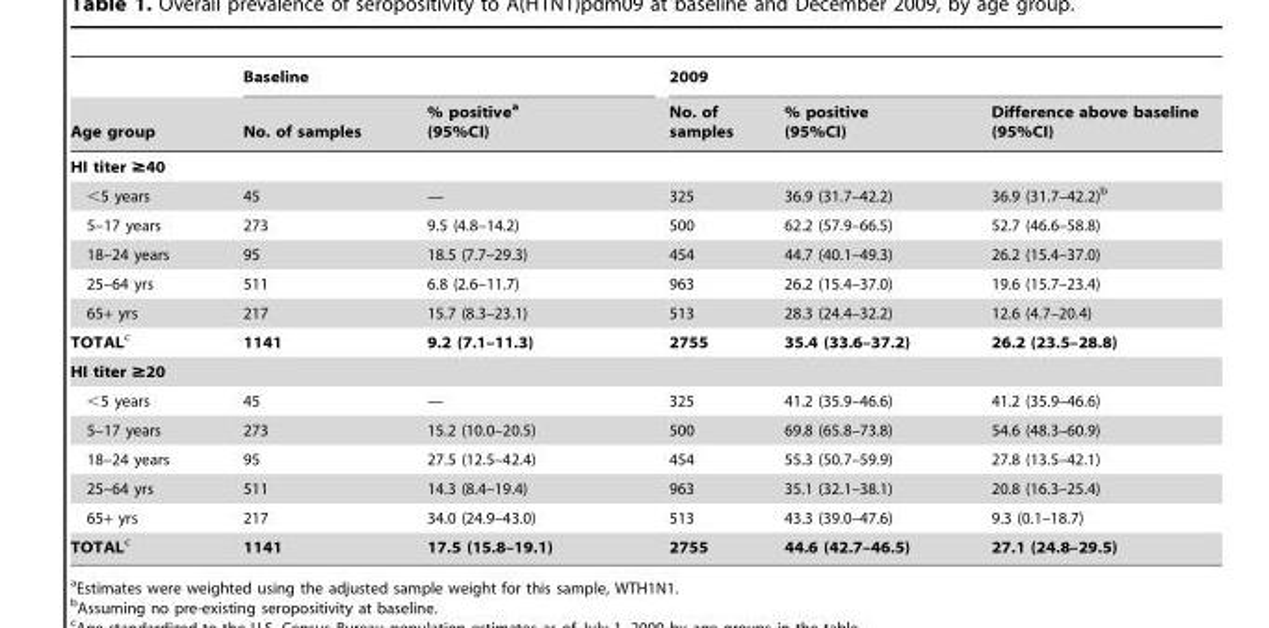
<table><thead><tr><td rowspan="2">Age group</td><td colspan="2">Baseline</td><td colspan="3">2009</td></tr><tr><td>No. of samples</td><td>% positive<sup>a</sup> (95%CI)</td><td>No. of samples</td><td>% positive (95%CI)</td><td>Difference above baseline (95%CI)</td></tr></thead><tbody><tr><td colspan="6">HI titer ≥40</td></tr><tr><td>&lt;5 years</td><td>45</td><td>—</td><td>325</td><td>36.9 (31.7–42.2)</td><td>36.9 (31.7–42.2)<sup>b</sup></td></tr><tr><td>5–17 years</td><td>273</td><td>9.5 (4.8–14.2)</td><td>500</td><td>62.2 (57.9–66.5)</td><td>52.7 (46.6–58.8)</td></tr><tr><td>18–24 years</td><td>95</td><td>18.5 (7.7–29.3)</td><td>454</td><td>44.7 (40.1–49.3)</td><td>26.2 (15.4–37.0)</td></tr><tr><td>25–64 yrs</td><td>511</td><td>6.8 (2.6–11.7)</td><td>963</td><td>26.2 (15.4–37.0)</td><td>19.6 (15.7–23.4)</td></tr><tr><td>65+ yrs</td><td>217</td><td>15.7 (8.3–23.1)</td><td>513</td><td>28.3 (24.4–32.2)</td><td>12.6 (4.7–20.4)</td></tr><tr><td>TOTALc</td><td>1141</td><td>9.2 (7.1–11.3)</td><td>2755</td><td>35.4 (33.6–37.2)</td><td>26.2 (23.5–28.8)</td></tr><tr><td colspan="6">HI titer ≥20</td></tr><tr><td>&lt;5 years</td><td>45</td><td>—</td><td>325</td><td>41.2 (35.9–46.6)</td><td>41.2 (35.9–46.6)</td></tr><tr><td>5–17 years</td><td>273</td><td>15.2 (10.0–20.5)</td><td>500</td><td>69.8 (65.8–73.8)</td><td>54.6 (48.3–60.9)</td></tr><tr><td>18–24 years</td><td>95</td><td>27.5 (12.5–42.4)</td><td>454</td><td>55.3 (50.7–59.9)</td><td>27.8 (13.5–42.1)</td></tr><tr><td>25–64 yrs</td><td>511</td><td>14.3 (8.4–19.4)</td><td>963</td><td>35.1 (32.1–38.1)</td><td>20.8 (16.3–25.4)</td></tr><tr><td>65+ yrs</td><td>217</td><td>34.0 (24.9–43.0)</td><td>513</td><td>43.3 (39.0–47.6)</td><td>9.3 (0.1–18.7)</td></tr><tr><td>TOTALc</td><td>1141</td><td>17.5 (15.8–19.1)</td><td>2755</td><td>44.6 (42.7–46.5)</td><td>27.1 (24.8–29.5)</td></tr></tbody></table>